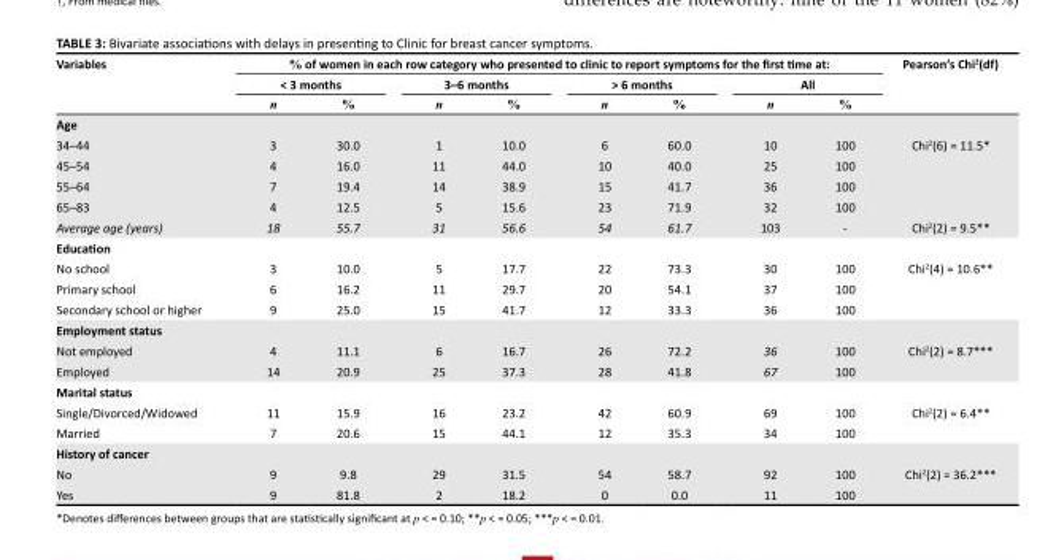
<table><thead><tr><td rowspan="3">Variables</td><td colspan="8">% of women in each row category who presented to clinic to report symptoms for the first time at:</td><td rowspan="3">Pearson’s Chi<sup>2</sup>(df)</td></tr><tr><td colspan="2">&lt; 3 months</td><td colspan="2">3–6 months</td><td colspan="2">&gt; 6 months</td><td colspan="2">All</td></tr><tr><td>n</td><td>%</td><td>n</td><td>%</td><td>n</td><td>%</td><td>n</td><td>%</td></tr></thead><tbody><tr><td colspan="10">Age</td></tr><tr><td>34–44</td><td>3</td><td>30.0</td><td>1</td><td>10.0</td><td>6</td><td>60.0</td><td>10</td><td>100</td><td>Chi<sup>2</sup>(6) = 11.5*</td></tr><tr><td>45–54</td><td>4</td><td>16.0</td><td>11</td><td>44.0</td><td>10</td><td>40.0</td><td>25</td><td>100</td><td></td></tr><tr><td>55–64</td><td>7</td><td>19.4</td><td>14</td><td>38.9</td><td>15</td><td>41.7</td><td>36</td><td>100</td><td></td></tr><tr><td>65–83</td><td>4</td><td>12.5</td><td>5</td><td>15.6</td><td>23</td><td>71.9</td><td>32</td><td>100</td><td></td></tr><tr><td>Average age (years)</td><td>18</td><td>55.7</td><td>31</td><td>56.6</td><td>54</td><td>61.7</td><td>103</td><td>-</td><td>Chi<sup>2</sup>(2) = 9.5**</td></tr><tr><td colspan="10">Education</td></tr><tr><td>No school</td><td>3</td><td>10.0</td><td>5</td><td>17.7</td><td>22</td><td>73.3</td><td>30</td><td>100</td><td>Chi<sup>2</sup>(4) = 10.6**</td></tr><tr><td>Primary school</td><td>6</td><td>16.2</td><td>11</td><td>29.7</td><td>20</td><td>54.1</td><td>37</td><td>100</td><td></td></tr><tr><td>Secondary school or higher</td><td>9</td><td>25.0</td><td>15</td><td>41.7</td><td>12</td><td>33.3</td><td>36</td><td>100</td><td></td></tr><tr><td colspan="10">Employment status</td></tr><tr><td>Not employed</td><td>4</td><td>11.1</td><td>6</td><td>16.7</td><td>26</td><td>72.2</td><td>36</td><td>100</td><td>Chi<sup>2</sup>(2) = 8.7***</td></tr><tr><td>Employed</td><td>14</td><td>20.9</td><td>25</td><td>37.3</td><td>28</td><td>41.8</td><td>67</td><td>100</td><td></td></tr><tr><td colspan="10">Marital status</td></tr><tr><td>Single/Divorced/Widowed</td><td>11</td><td>15.9</td><td>16</td><td>23.2</td><td>42</td><td>60.9</td><td>69</td><td>100</td><td>Chi<sup>2</sup>(2) = 6.4**</td></tr><tr><td>Married</td><td>7</td><td>20.6</td><td>15</td><td>44.1</td><td>12</td><td>35.3</td><td>34</td><td>100</td><td></td></tr><tr><td colspan="10">History of cancer</td></tr><tr><td>No</td><td>9</td><td>9.8</td><td>29</td><td>31.5</td><td>54</td><td>58.7</td><td>92</td><td>100</td><td>Chi<sup>2</sup>(2) = 36.2***</td></tr><tr><td>Yes</td><td>9</td><td>81.8</td><td>2</td><td>18.2</td><td>0</td><td>0.0</td><td>11</td><td>100</td><td></td></tr></tbody></table>